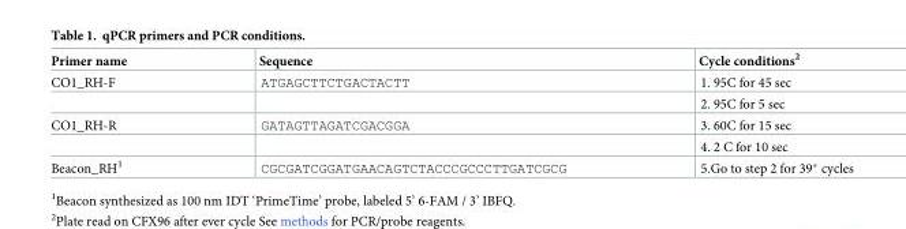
<table><thead><tr><td>Primer name</td><td>Sequence</td><td>Cycle conditions<sup>2</sup></td></tr></thead><tbody><tr><td rowspan="2">CO1_RH-F</td><td>ATGAGCTTCTGACTACTT</td><td>1. 95C for 45 sec</td></tr><tr><td></td><td>2. 95C for 5 sec</td></tr><tr><td rowspan="2">CO1_RH-R</td><td>GATAGTTAGATCGACGGA</td><td>3. 60C for 15 sec</td></tr><tr><td></td><td>4. 2 C for 10 sec</td></tr><tr><td>Beacon_RH<sup>1</sup></td><td>CGCGATCGGATGAACAGTCTACCCGCCCTTGATCGCG</td><td>5.Go to step 2 for 39* cycles</td></tr></tbody></table>